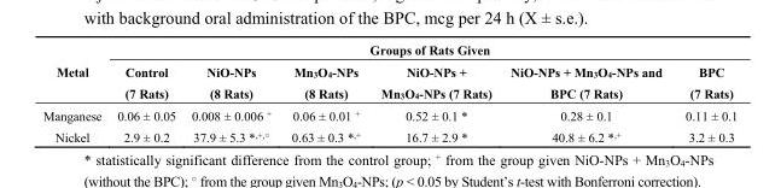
<table><thead><tr><td rowspan="2">Metal</td><td colspan="6">Groups of Rats Given</td></tr><tr><td>Control (7 Rats)</td><td>NiO-NPs (8 Rats)</td><td>Mn<sub>3</sub>O<sub>4</sub>-NPs (8 Rats)</td><td>NiO-NPs + Mn<sub>3</sub>O<sub>4</sub>-NPs (7 Rats)</td><td>NiO-NPs + Mn<sub>3</sub>O<sub>4</sub>-NPs and BPC (7 Rats)</td><td>BPC (7 Rats)</td></tr></thead><tbody><tr><td>Manganese</td><td>0.06 ± 0.05</td><td>0.008 ± 0.006 <sup>+</sup></td><td>0.06 ± 0.01 <sup>+</sup></td><td>0.52 ± 0.1 *</td><td>0.28 ± 0.1</td><td>0.11 ± 0.1</td></tr><tr><td>Nickel</td><td>2.9 ± 0.2</td><td>37.9 ± 5.3 *<sup>,+,○</sup></td><td>0.63 ± 0.3 *<sup>,+</sup></td><td>16.7 ± 2.9 *</td><td>40.8 ± 6.2 *<sup>,+</sup></td><td>3.2 ± 0.3</td></tr></tbody></table>